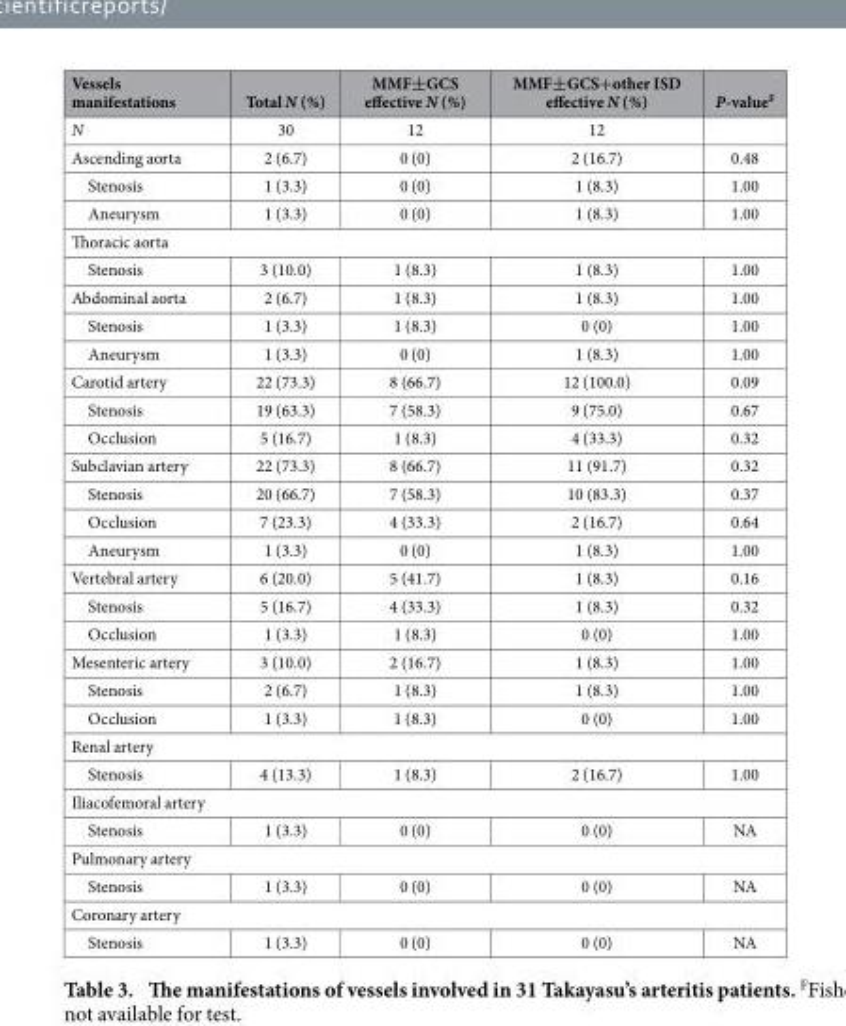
<table><thead><tr><td>Vessels manifestations</td><td>Total N (%)</td><td>MMF±GCS effective N (%)</td><td>MMF±GCS+other ISD effective N (%)</td><td>P-value<sup>F</sup></td></tr></thead><tbody><tr><td>N</td><td>30</td><td>12</td><td>12</td><td></td></tr><tr><td>Ascending aorta</td><td>2 (6.7)</td><td>0 (0)</td><td>2 (16.7)</td><td>0.48</td></tr><tr><td>Stenosis</td><td>1 (3.3)</td><td>0 (0)</td><td>1 (8.3)</td><td>1.00</td></tr><tr><td>Aneurysm</td><td>1 (3.3)</td><td>0 (0)</td><td>1 (8.3)</td><td>1.00</td></tr><tr><td colspan="5">Thoracic aorta</td></tr><tr><td>Stenosis</td><td>3 (10.0)</td><td>1 (8.3)</td><td>1 (8.3)</td><td>1.00</td></tr><tr><td>Abdominal aorta</td><td>2 (6.7)</td><td>1 (8.3)</td><td>1 (8.3)</td><td>1.00</td></tr><tr><td>Stenosis</td><td>1 (3.3)</td><td>1 (8.3)</td><td>0 (0)</td><td>1.00</td></tr><tr><td>Aneurysm</td><td>1 (3.3)</td><td>0 (0)</td><td>1 (8.3)</td><td>1.00</td></tr><tr><td>Carotid artery</td><td>22 (73.3)</td><td>8 (66.7)</td><td>12 (100.0)</td><td>0.09</td></tr><tr><td>Stenosis</td><td>19 (63.3)</td><td>7 (58.3)</td><td>9 (75.0)</td><td>0.67</td></tr><tr><td>Occlusion</td><td>5 (16.7)</td><td>1 (8.3)</td><td>4 (33.3)</td><td>0.32</td></tr><tr><td>Subclavian artery</td><td>22 (73.3)</td><td>8 (66.7)</td><td>11 (91.7)</td><td>0.32</td></tr><tr><td>Stenosis</td><td>20 (66.7)</td><td>7 (58.3)</td><td>10 (83.3)</td><td>0.37</td></tr><tr><td>Occlusion</td><td>7 (23.3)</td><td>4 (33.3)</td><td>2 (16.7)</td><td>0.64</td></tr><tr><td>Aneurysm</td><td>1 (3.3)</td><td>0 (0)</td><td>1 (8.3)</td><td>1.00</td></tr><tr><td>Vertebral artery</td><td>6 (20.0)</td><td>5 (41.7)</td><td>1 (8.3)</td><td>0.16</td></tr><tr><td>Stenosis</td><td>5 (16.7)</td><td>4 (33.3)</td><td>1 (8.3)</td><td>0.32</td></tr><tr><td>Occlusion</td><td>1 (3.3)</td><td>1 (8.3)</td><td>0 (0)</td><td>1.00</td></tr><tr><td>Mesenteric artery</td><td>3 (10.0)</td><td>2 (16.7)</td><td>1 (8.3)</td><td>1.00</td></tr><tr><td>Stenosis</td><td>2 (6.7)</td><td>1 (8.3)</td><td>1 (8.3)</td><td>1.00</td></tr><tr><td>Occlusion</td><td>1 (3.3)</td><td>1 (8.3)</td><td>0 (0)</td><td>1.00</td></tr><tr><td colspan="5">Renal artery</td></tr><tr><td>Stenosis</td><td>4 (13.3)</td><td>1 (8.3)</td><td>2 (16.7)</td><td>1.00</td></tr><tr><td colspan="5">Iliacofemoral artery</td></tr><tr><td>Stenosis</td><td>1 (3.3)</td><td>0 (0)</td><td>0 (0)</td><td>NA</td></tr><tr><td colspan="5">Pulmonary artery</td></tr><tr><td>Stenosis</td><td>1 (3.3)</td><td>0 (0)</td><td>0 (0)</td><td>NA</td></tr><tr><td colspan="5">Coronary artery</td></tr><tr><td>Stenosis</td><td>1 (3.3)</td><td>0 (0)</td><td>0 (0)</td><td>NA</td></tr></tbody></table>